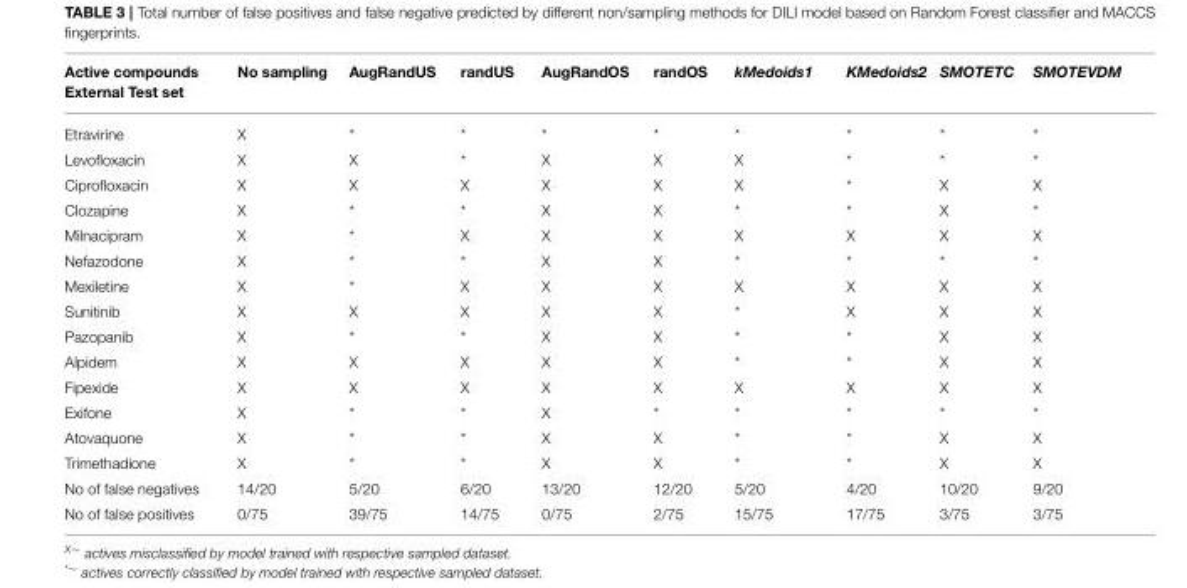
<table><thead><tr><td>Active compounds External Test set</td><td>No sampling</td><td>AugRandUS</td><td>randUS</td><td>AugRandOS</td><td>randOS</td><td>kMedoids1</td><td>KMedoids2</td><td>SMOTETC</td><td>SMOTEVDM</td></tr></thead><tbody><tr><td>Etravirine</td><td>X</td><td>*</td><td>*</td><td>*</td><td>*</td><td>*</td><td>*</td><td>*</td><td>*</td></tr><tr><td>Levofloxacin</td><td>X</td><td>X</td><td>*</td><td>X</td><td>X</td><td>X</td><td>*</td><td>*</td><td>*</td></tr><tr><td>Ciprofloxacin</td><td>X</td><td>X</td><td>X</td><td>X</td><td>X</td><td>X</td><td>*</td><td>X</td><td>X</td></tr><tr><td>Clozapine</td><td>X</td><td>*</td><td>*</td><td>X</td><td>X</td><td>*</td><td>*</td><td>X</td><td>*</td></tr><tr><td>Milnacipram</td><td>X</td><td>*</td><td>X</td><td>X</td><td>X</td><td>X</td><td>X</td><td>X</td><td>X</td></tr><tr><td>Nefazodone</td><td>X</td><td>*</td><td>*</td><td>X</td><td>X</td><td>*</td><td>*</td><td>*</td><td>*</td></tr><tr><td>Mexiletine</td><td>X</td><td>*</td><td>X</td><td>X</td><td>X</td><td>X</td><td>X</td><td>X</td><td>X</td></tr><tr><td>Sunitinib</td><td>X</td><td>X</td><td>X</td><td>X</td><td>X</td><td>*</td><td>X</td><td>X</td><td>X</td></tr><tr><td>Pazopanib</td><td>X</td><td>*</td><td>*</td><td>X</td><td>X</td><td>*</td><td>*</td><td>X</td><td>X</td></tr><tr><td>Alpidem</td><td>X</td><td>X</td><td>X</td><td>X</td><td>X</td><td>*</td><td>*</td><td>X</td><td>X</td></tr><tr><td>Fipexide</td><td>X</td><td>X</td><td>X</td><td>X</td><td>X</td><td>X</td><td>X</td><td>X</td><td>X</td></tr><tr><td>Exifone</td><td>X</td><td>*</td><td>*</td><td>X</td><td>*</td><td>*</td><td>*</td><td>*</td><td>*</td></tr><tr><td>Atovaquone</td><td>X</td><td>*</td><td>*</td><td>X</td><td>X</td><td>*</td><td>*</td><td>X</td><td>X</td></tr><tr><td>Trimethadione</td><td>X</td><td>*</td><td>*</td><td>X</td><td>X</td><td>*</td><td>*</td><td>X</td><td>X</td></tr><tr><td>No of false negatives</td><td>14/20</td><td>5/20</td><td>6/20</td><td>13/20</td><td>12/20</td><td>5/20</td><td>4/20</td><td>10/20</td><td>9/20</td></tr><tr><td>No of false positives</td><td>0/75</td><td>39/75</td><td>14/75</td><td>0/75</td><td>2/75</td><td>15/75</td><td>17/75</td><td>3/75</td><td>3/75</td></tr></tbody></table>